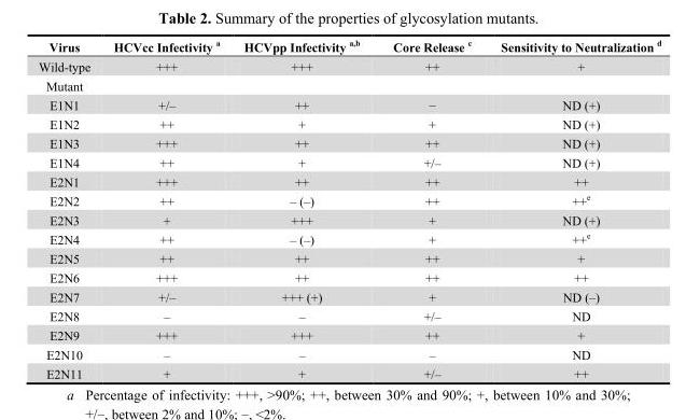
<table><thead><tr><td>Virus</td><td>HCVcc Infectivity <sup>a</sup></td><td>HCVpp Infectivity <sup>a,b</sup></td><td>Core Release <sup>c</sup></td><td>Sensitivity to Neutralization <sup>d</sup></td></tr></thead><tbody><tr><td>Wild-type</td><td>+++</td><td>+++</td><td>++</td><td>+</td></tr><tr><td colspan="5">Mutant</td></tr><tr><td>E1N1</td><td>+/–</td><td>++</td><td>−</td><td>ND (+)</td></tr><tr><td>E1N2</td><td>++</td><td>+</td><td>+</td><td>ND (+)</td></tr><tr><td>E1N3</td><td>+++</td><td>++</td><td>++</td><td>ND (+)</td></tr><tr><td>E1N4</td><td>++</td><td>+</td><td>+/–</td><td>ND (+)</td></tr><tr><td>E2N1</td><td>+++</td><td>++</td><td>++</td><td>++</td></tr><tr><td>E2N2</td><td>++</td><td>– (–)</td><td>++</td><td>++<sup>e</sup></td></tr><tr><td>E2N3</td><td>+</td><td>+++</td><td>+</td><td>ND (+)</td></tr><tr><td>E2N4</td><td>++</td><td>– (–)</td><td>+</td><td>++<sup>e</sup></td></tr><tr><td>E2N5</td><td>++</td><td>++</td><td>++</td><td>+</td></tr><tr><td>E2N6</td><td>+++</td><td>++</td><td>++</td><td>++</td></tr><tr><td>E2N7</td><td>+/–</td><td>+++ (+)</td><td>+</td><td>ND (–)</td></tr><tr><td>E2N8</td><td>–</td><td>–</td><td>+/–</td><td>ND</td></tr><tr><td>E2N9</td><td>+++</td><td>+++</td><td>++</td><td>+</td></tr><tr><td>E2N10</td><td>–</td><td>–</td><td>–</td><td>ND</td></tr><tr><td>E2N11</td><td>+</td><td>+</td><td>+/–</td><td>++</td></tr></tbody></table>